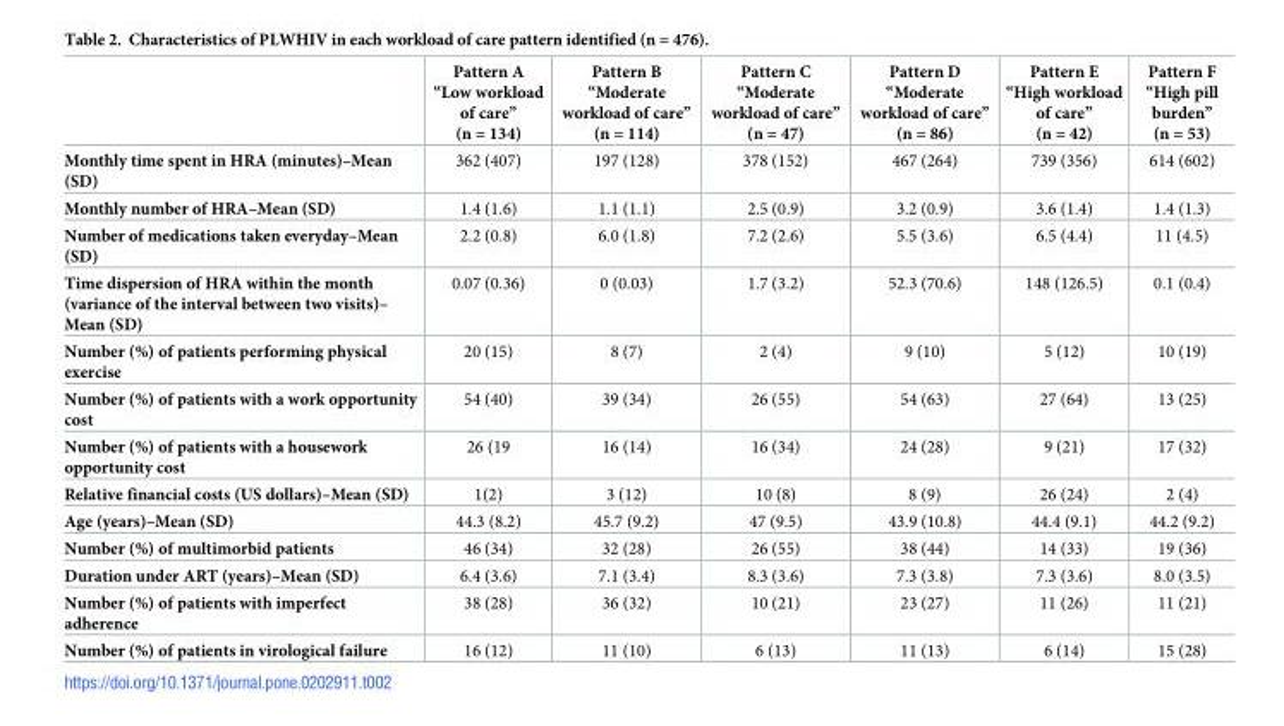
<table><thead><tr><td></td><td>Pattern A “Low workload of care” (n = 134)</td><td>Pattern B “Moderate workload of care” (n = 114)</td><td>Pattern C “Moderate workload of care” (n = 47)</td><td>Pattern D “Moderate workload of care” (n = 86)</td><td>Pattern E “High workload of care” (n = 42)</td><td>Pattern F “High pill burden” (n = 53)</td></tr></thead><tbody><tr><td>Monthly time spent in HRA (minutes)–Mean (SD)</td><td>362 (407)</td><td>197 (128)</td><td>378 (152)</td><td>467 (264)</td><td>739 (356)</td><td>614 (602)</td></tr><tr><td>Monthly number of HRA–Mean (SD)</td><td>1.4 (1.6)</td><td>1.1 (1.1)</td><td>2.5 (0.9)</td><td>3.2 (0.9)</td><td>3.6 (1.4)</td><td>1.4 (1.3)</td></tr><tr><td>Number of medications taken everyday–Mean (SD)</td><td>2.2 (0.8)</td><td>6.0 (1.8)</td><td>7.2 (2.6)</td><td>5.5 (3.6)</td><td>6.5 (4.4)</td><td>11 (4.5)</td></tr><tr><td>Time dispersion of HRA within the month (variance of the interval between two visits)– Mean (SD)</td><td>0.07 (0.36)</td><td>0 (0.03)</td><td>1.7 (3.2)</td><td>52.3 (70.6)</td><td>148 (126.5)</td><td>0.1 (0.4)</td></tr><tr><td>Number (%) of patients performing physical exercise</td><td>20 (15)</td><td>8 (7)</td><td>2 (4)</td><td>9 (10)</td><td>5 (12)</td><td>10 (19)</td></tr><tr><td>Number (%) of patients with a work opportunity cost</td><td>54 (40)</td><td>39 (34)</td><td>26 (55)</td><td>54 (63)</td><td>27 (64)</td><td>13 (25)</td></tr><tr><td>Number (%) of patients with a housework opportunity cost</td><td>26 (19</td><td>16 (14)</td><td>16 (34)</td><td>24 (28)</td><td>9 (21)</td><td>17 (32)</td></tr><tr><td>Relative financial costs (US dollars)–Mean (SD)</td><td>1(2)</td><td>3 (12)</td><td>10 (8)</td><td>8 (9)</td><td>26 (24)</td><td>2 (4)</td></tr><tr><td>Age (years)–Mean (SD)</td><td>44.3 (8.2)</td><td>45.7 (9.2)</td><td>47 (9.5)</td><td>43.9 (10.8)</td><td>44.4 (9.1)</td><td>44.2 (9.2)</td></tr><tr><td>Number (%) of multimorbid patients</td><td>46 (34)</td><td>32 (28)</td><td>26 (55)</td><td>38 (44)</td><td>14 (33)</td><td>19 (36)</td></tr><tr><td>Duration under ART (years)–Mean (SD)</td><td>6.4 (3.6)</td><td>7.1 (3.4)</td><td>8.3 (3.6)</td><td>7.3 (3.8)</td><td>7.3 (3.6)</td><td>8.0 (3.5)</td></tr><tr><td>Number (%) of patients with imperfect adherence</td><td>38 (28)</td><td>36 (32)</td><td>10 (21)</td><td>23 (27)</td><td>11 (26)</td><td>11 (21)</td></tr><tr><td>Number (%) of patients in virological failure</td><td>16 (12)</td><td>11 (10)</td><td>6 (13)</td><td>11 (13)</td><td>6 (14)</td><td>15 (28)</td></tr></tbody></table>